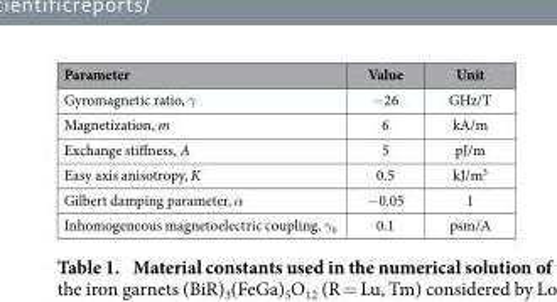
<table><thead><tr><td>Parameter</td><td>Value</td><td>Unit</td></tr></thead><tbody><tr><td>Gyromagnetic ratio, γ</td><td>− 26</td><td>GHz/T</td></tr><tr><td>Magnetization, m</td><td>6</td><td>kA/m</td></tr><tr><td>Exchange stiffness, A</td><td>5</td><td>pJ/m</td></tr><tr><td>Easy axis anisotropy, K</td><td>0.5</td><td>kJ/m<sup>3</sup></td></tr><tr><td>Gilbert damping parameter, α</td><td>− 0.05</td><td>1</td></tr><tr><td>Inhomogeneous magnetoelectric coupling, γ<sub>0</sub></td><td>0.1</td><td>psm/A</td></tr></tbody></table>